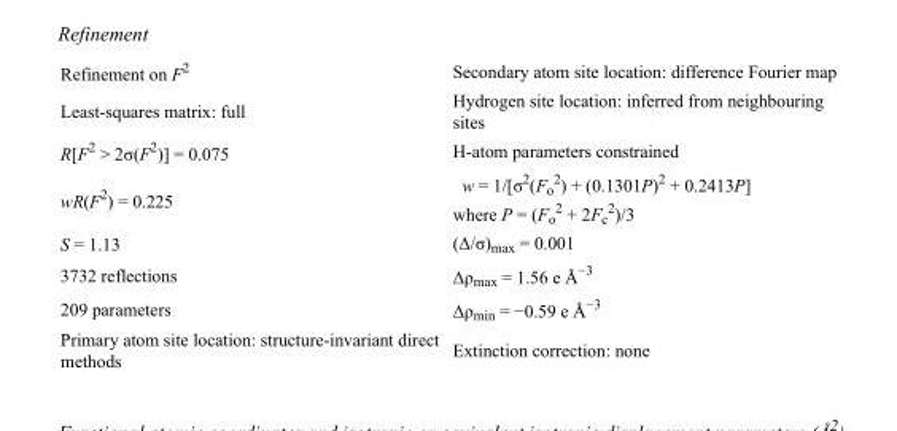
<table><tbody><tr><td>Refinement on F<sup>2</sup></td><td>Secondary atom site location: difference Fourier map</td></tr><tr><td>Least-squares matrix: full</td><td>Hydrogen site location: inferred from neighbouring sites</td></tr><tr><td>R[F<sup>2</sup> &gt; 2σ(F<sup>2</sup>)] = 0.075</td><td>H-atom parameters constrained</td></tr><tr><td>wR(F<sup>2</sup>) = 0.225</td><td>w = 1/[σ<sup>2</sup>(F<sub>o</sub> <sup>2</sup>) + (0.1301P)<sup>2</sup> + 0.2413P] where P = (F<sub>o</sub> <sup>2</sup> + 2F<sub>c</sub> <sup>2</sup>)/3</td></tr><tr><td>S = 1.13</td><td>(Δ/σ)<sub>max</sub> = 0.001</td></tr><tr><td>3732 reflections</td><td>Δρ<sub>max</sub> = 1.56 e Å<sup>−3</sup></td></tr><tr><td>209 parameters</td><td>Δρ<sub>min</sub> = −0.59 e Å<sup>−3</sup></td></tr><tr><td>Primary atom site location: structure-invariant direct methods</td><td>Extinction correction: none</td></tr></tbody></table>